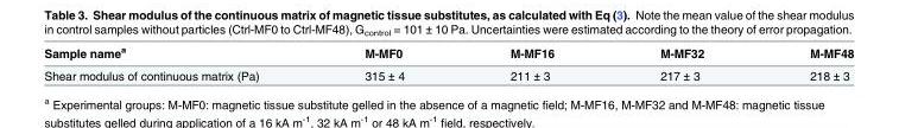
<table><thead><tr><td>Sample name<sup>a</sup></td><td>M-MF0</td><td>M-MF16</td><td>M-MF32</td><td>M-MF48</td></tr></thead><tbody><tr><td>Shear modulus of continuous matrix (Pa)</td><td>315 ± 4</td><td>211 ± 3</td><td>217 ± 3</td><td>218 ± 3</td></tr></tbody></table>